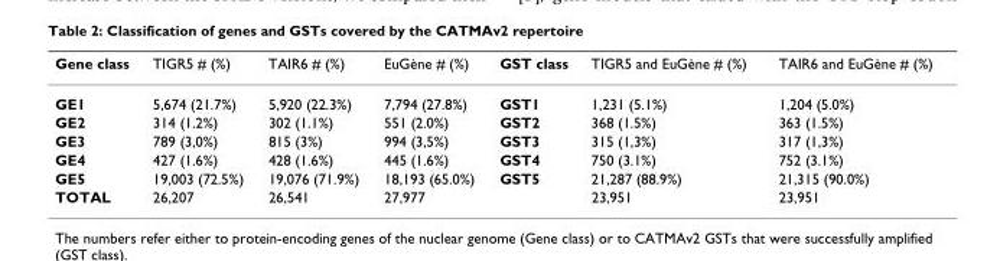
<table><thead><tr><td>Gene class</td><td>TIGR5 # (%)</td><td>TAIR6 # (%)</td><td>EuGène # (%)</td><td>GST class</td><td>TIGR5 and EuGène # (%)</td><td>TAIR6 and EuGène # (%)</td></tr></thead><tbody><tr><td>GE1</td><td>5,674 (21.7%)</td><td>5,920 (22.3%)</td><td>7,794 (27.8%)</td><td>GST1</td><td>1,231 (5.1%)</td><td>1,204 (5.0%)</td></tr><tr><td>GE2</td><td>314 (1.2%)</td><td>302 (1.1%)</td><td>551 (2.0%)</td><td>GST2</td><td>368 (1.5%)</td><td>363 (1.5%)</td></tr><tr><td>GE3</td><td>789 (3,0%)</td><td>815 (3%)</td><td>994 (3,5%)</td><td>GST3</td><td>315 (1,3%)</td><td>317 (1,3%)</td></tr><tr><td>GE4</td><td>427 (1.6%)</td><td>428 (1.6%)</td><td>445 (1.6%)</td><td>GST4</td><td>750 (3.1%)</td><td>752 (3.1%)</td></tr><tr><td>GE5</td><td>19,003 (72.5%)</td><td>19,076 (71.9%)</td><td>18,193 (65.0%)</td><td>GST5</td><td>21,287 (88.9%)</td><td>21,315 (90.0%)</td></tr><tr><td>TOTAL</td><td>26,207</td><td>26,541</td><td>27,977</td><td></td><td>23,951</td><td>23,951</td></tr></tbody></table>